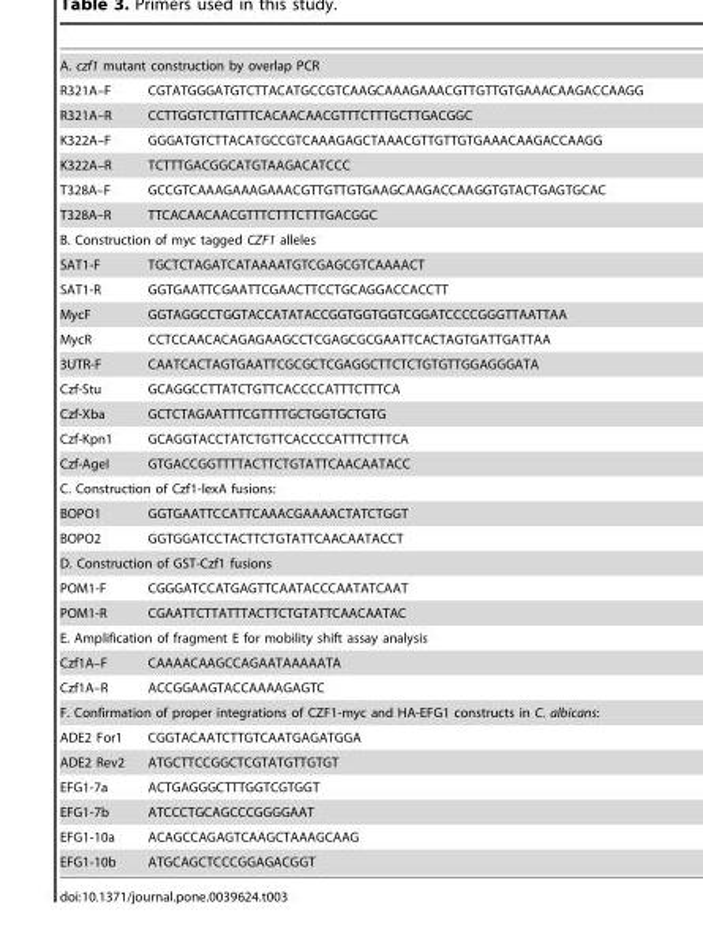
<table><tbody><tr><td colspan="2">A. czf1 mutant construction by overlap PCR</td></tr><tr><td>R321A–F</td><td>CGTATGGGATGTCTTACATGCCGTCAAGCAAAGAAACGTTGTTGTGAAACAAGACCAAGG</td></tr><tr><td>R321A–R</td><td>CCTTGGTCTTGTTTCACAACAACGTTTCTTTGCTTGACGGC</td></tr><tr><td>K322A–F</td><td>GGGATGTCTTACATGCCGTCAAAGAGCTAAACGTTGTTGTGAAACAAGACCAAGG</td></tr><tr><td>K322A–R</td><td>TCTTTGACGGCATGTAAGACATCCC</td></tr><tr><td>T328A–F</td><td>GCCGTCAAAGAAAGAAACGTTGTTGTGAAGCAAGACCAAGGTGTACTGAGTGCAC</td></tr><tr><td>T328A–R</td><td>TTCACAACAACGTTTCTTTCTTTGACGGC</td></tr><tr><td colspan="2">B. Construction of myc tagged CZF1 alleles</td></tr><tr><td>SAT1-F</td><td>TGCTCTAGATCATAAAATGTCGAGCGTCAAAACT</td></tr><tr><td>SAT1-R</td><td>GGTGAATTCGAATTCGAACTTCCTGCAGGACCACCTT</td></tr><tr><td>MycF</td><td>GGTAGGCCTGGTACCATATACCGGTGGTGGTCGGATCCCCGGGTTAATTAA</td></tr><tr><td>MycR</td><td>CCTCCAACACAGAGAAGCCTCGAGCGCGAATTCACTAGTGATTGATTAA</td></tr><tr><td>3UTR-F</td><td>CAATCACTAGTGAATTCGCGCTCGAGGCTTCTCTGTGTTGGAGGGATA</td></tr><tr><td>Czf-Stu</td><td>GCAGGCCTTATCTGTTCACCCCATTTCTTTCA</td></tr><tr><td>Czf-Xba</td><td>GCTCTAGAATTTCGTTTTGCTGGTGCTGTG</td></tr><tr><td>Czf-Kpn1</td><td>GCAGGTACCTATCTGTTCACCCCATTTCTTTCA</td></tr><tr><td>Czf-AgeI</td><td>GTGACCGGTTTTACTTCTGTATTCAACAATACC</td></tr><tr><td colspan="2">C. Construction of Czf1-lexA fusions:</td></tr><tr><td>BOPO1</td><td>GGTGAATTCCATTCAAACGAAAACTATCTGGT</td></tr><tr><td>BOPO2</td><td>GGTGGATCCTACTTCTGTATTCAACAATACCT</td></tr><tr><td colspan="2">D. Construction of GST-Czf1 fusions</td></tr><tr><td>POM1-F</td><td>CGGGATCCATGAGTTCAATACCCAATATCAAT</td></tr><tr><td>POM1-R</td><td>CGAATTCTTATTTACTTCTGTATTCAACAATAC</td></tr><tr><td colspan="2">E. Amplification of fragment E for mobility shift assay analysis</td></tr><tr><td>Czf1A–F</td><td>CAAAACAAGCCAGAATAAAAATA</td></tr><tr><td>Czf1A–R</td><td>ACCGGAAGTACCAAAAGAGTC</td></tr><tr><td colspan="2">F. Confirmation of proper integrations of CZF1-myc and HA-EFG1 constructs in C. albicans:</td></tr><tr><td>ADE2 For1</td><td>CGGTACAATCTTGTCAATGAGATGGA</td></tr><tr><td>ADE2 Rev2</td><td>ATGCTTCCGGCTCGTATGTTGTGT</td></tr><tr><td>EFG1-7a</td><td>ACTGAGGGCTTTGGTCGTGGT</td></tr><tr><td>EFG1-7b</td><td>ATCCCTGCAGCCCGGGGAAT</td></tr><tr><td>EFG1-10a</td><td>ACAGCCAGAGTCAAGCTAAAGCAAG</td></tr><tr><td>EFG1-10b</td><td>ATGCAGCTCCCGGAGACGGT</td></tr></tbody></table>